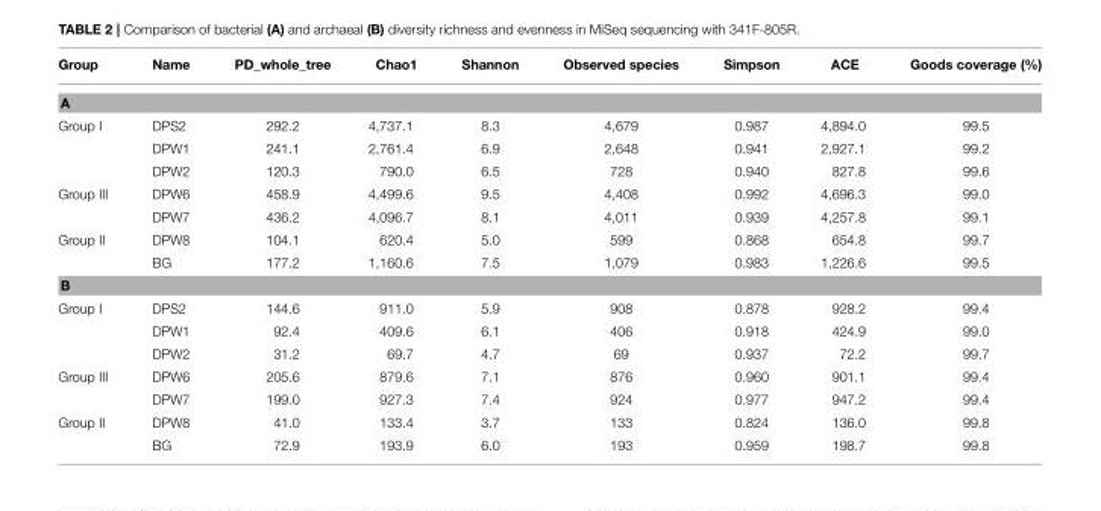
<table><thead><tr><td>Group</td><td>Name</td><td>PD_whole_tree</td><td>Chao1</td><td>Shannon</td><td>Observed species</td><td>Simpson</td><td>ACE</td><td>Goods coverage (%)</td></tr></thead><tbody><tr><td colspan="9">A</td></tr><tr><td rowspan="3">Group I</td><td>DPS2</td><td>292.2</td><td>4,737.1</td><td>8.3</td><td>4,679</td><td>0.987</td><td>4,894.0</td><td>99.5</td></tr><tr><td>DPW1</td><td>241.1</td><td>2,761.4</td><td>6.9</td><td>2,648</td><td>0.941</td><td>2,927.1</td><td>99.2</td></tr><tr><td>DPW2</td><td>120.3</td><td>790.0</td><td>6.5</td><td>728</td><td>0.940</td><td>827.8</td><td>99.6</td></tr><tr><td rowspan="2">Group III</td><td>DPW6</td><td>458.9</td><td>4,499.6</td><td>9.5</td><td>4,408</td><td>0.992</td><td>4,696.3</td><td>99.0</td></tr><tr><td>DPW7</td><td>436.2</td><td>4,096.7</td><td>8.1</td><td>4,011</td><td>0.939</td><td>4,257.8</td><td>99.1</td></tr><tr><td rowspan="2">Group II</td><td>DPW8</td><td>104.1</td><td>620.4</td><td>5.0</td><td>599</td><td>0.868</td><td>654.8</td><td>99.7</td></tr><tr><td>BG</td><td>177.2</td><td>1,160.6</td><td>7.5</td><td>1,079</td><td>0.983</td><td>1,226.6</td><td>99.5</td></tr><tr><td colspan="9">B</td></tr><tr><td rowspan="3">Group I</td><td>DPS2</td><td>144.6</td><td>911.0</td><td>5.9</td><td>908</td><td>0.878</td><td>928.2</td><td>99.4</td></tr><tr><td>DPW1</td><td>92.4</td><td>409.6</td><td>6.1</td><td>406</td><td>0.918</td><td>424.9</td><td>99.0</td></tr><tr><td>DPW2</td><td>31.2</td><td>69.7</td><td>4.7</td><td>69</td><td>0.937</td><td>72.2</td><td>99.7</td></tr><tr><td rowspan="2">Group III</td><td>DPW6</td><td>205.6</td><td>879.6</td><td>7.1</td><td>876</td><td>0.960</td><td>901.1</td><td>99.4</td></tr><tr><td>DPW7</td><td>199.0</td><td>927.3</td><td>7.4</td><td>924</td><td>0.977</td><td>947.2</td><td>99.4</td></tr><tr><td rowspan="2">Group II</td><td>DPW8</td><td>41.0</td><td>133.4</td><td>3.7</td><td>133</td><td>0.824</td><td>136.0</td><td>99.8</td></tr><tr><td>BG</td><td>72.9</td><td>193.9</td><td>6.0</td><td>193</td><td>0.959</td><td>198.7</td><td>99.8</td></tr></tbody></table>